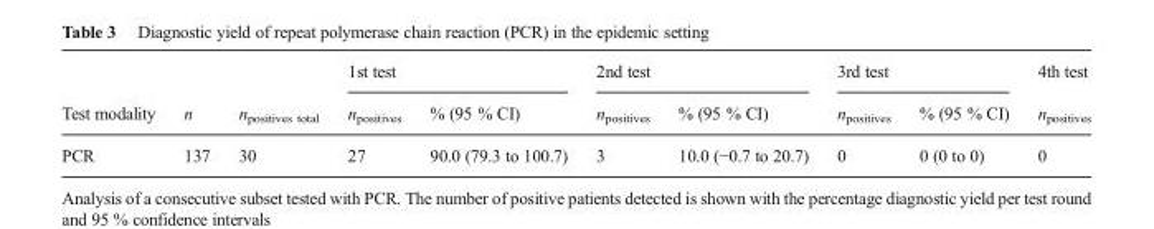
<table><thead><tr><td rowspan="2">Test modality</td><td rowspan="2">n</td><td rowspan="2">n<sub>positives total</sub></td><td colspan="2">1st test</td><td colspan="2">2nd test</td><td colspan="2">3rd test</td><td rowspan="2">4th test n<sub>positives</sub></td></tr><tr><td>n<sub>positives</sub></td><td>% (95 % CI)</td><td>n<sub>positives</sub></td><td>% (95 % CI)</td><td>n<sub>positives</sub></td><td>% (95 % CI)</td></tr></thead><tbody><tr><td>PCR</td><td>137</td><td>30</td><td>27</td><td>90.0 (79.3 to 100.7)</td><td>3</td><td>10.0 (−0.7 to 20.7)</td><td>0</td><td>0 (0 to 0)</td><td>0</td></tr></tbody></table>